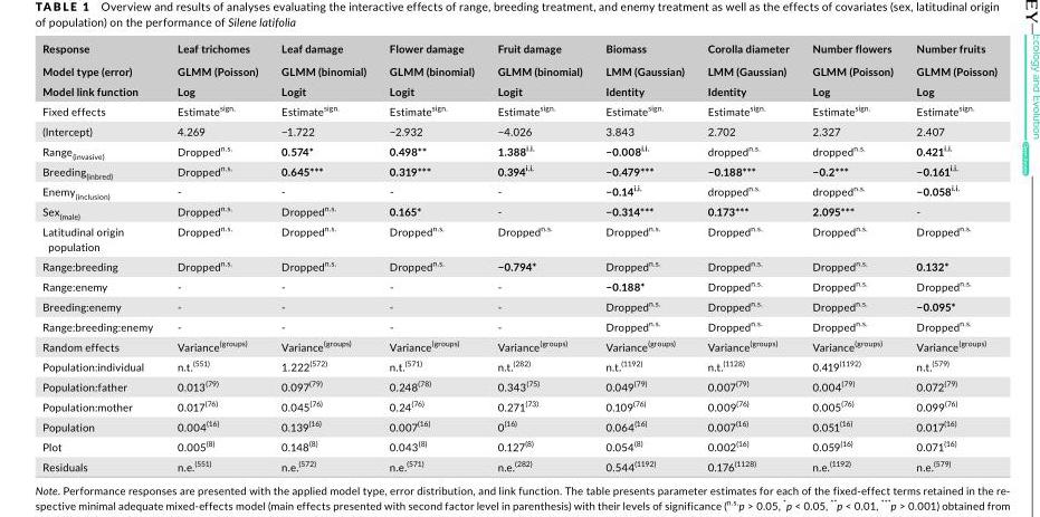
<table><thead><tr><td>Response</td><td>Leaf trichomes</td><td>Leaf damage</td><td>Flower damage</td><td>Fruit damage</td><td>Biomass</td><td>Corolla diameter</td><td>Number flowers</td><td>Number fruits</td></tr></thead><tbody><tr><td>Model type (error)</td><td>GLMM (Poisson)</td><td>GLMM (binomial)</td><td>GLMM (binomial)</td><td>GLMM (binomial)</td><td>LMM (Gaussian)</td><td>LMM (Gaussian)</td><td>GLMM (Poisson)</td><td>GLMM (Poisson)</td></tr><tr><td>Model link function</td><td>Log</td><td>Logit</td><td>Logit</td><td>Logit</td><td>Identity</td><td>Identity</td><td>Log</td><td>Log</td></tr><tr><td>Fixed effects</td><td>Estimate<sup>sign.</sup></td><td>Estimate<sup>sign.</sup></td><td>Estimate<sup>sign.</sup></td><td>Estimate<sup>sign.</sup></td><td>Estimate<sup>sign.</sup></td><td>Estimate<sup>sign.</sup></td><td>Estimate<sup>sign.</sup></td><td>Estimate<sup>sign.</sup></td></tr><tr><td>(Intercept)</td><td>4.269</td><td>−1.722</td><td>−2.932</td><td>−4.026</td><td>3.843</td><td>2.702</td><td>2.327</td><td>2.407</td></tr><tr><td>Range<sub>(invasive)</sub></td><td>Dropped<sup>n.s.</sup></td><td>0.574*</td><td>0.498**</td><td>1.388<sup>i.i.</sup></td><td>−0.008<sup>i.i.</sup></td><td>dropped<sup>n.s.</sup></td><td>dropped<sup>n.s.</sup></td><td>0.421<sup>i.i.</sup></td></tr><tr><td>Breeding<sub>(inbred)</sub></td><td>Dropped<sup>n.s.</sup></td><td>0.645***</td><td>0.319***</td><td>0.394<sup>i.i.</sup></td><td>−0.479***</td><td>−0.188***</td><td>−0.2***</td><td>−0.161<sup>i.i.</sup></td></tr><tr><td>Enemy<sub>(inclusion)</sub></td><td>‐</td><td>‐</td><td>‐</td><td>‐</td><td>−0.14<sup>i.i.</sup></td><td>dropped<sup>n.s.</sup></td><td>dropped<sup>n.s.</sup></td><td>−0.058<sup>i.i.</sup></td></tr><tr><td>Sex<sub>(male)</sub></td><td>Dropped<sup>n.s.</sup></td><td>Dropped<sup>n.s.</sup></td><td>0.165*</td><td>‐</td><td>−0.314***</td><td>0.173***</td><td>2.095***</td><td>‐</td></tr><tr><td>Latitudinal origin population</td><td>Dropped<sup>n.s.</sup></td><td>Dropped<sup>n.s.</sup></td><td>Dropped<sup>n.s.</sup></td><td>Dropped<sup>n.s.</sup></td><td>Dropped<sup>n.s.</sup></td><td>Dropped<sup>n.s.</sup></td><td>Dropped<sup>n.s.</sup></td><td>Dropped<sup>n.s.</sup></td></tr><tr><td>Range:breeding</td><td>Dropped<sup>n.s.</sup></td><td>Dropped<sup>n.s.</sup></td><td>Dropped<sup>n.s.</sup></td><td>−0.794*</td><td>Dropped<sup>n.s.</sup></td><td>Dropped<sup>n.s.</sup></td><td>Dropped<sup>n.s.</sup></td><td>0.132*</td></tr><tr><td>Range:enemy</td><td>‐</td><td>‐</td><td>‐</td><td>‐</td><td>−0.188*</td><td>Dropped<sup>n.s.</sup></td><td>Dropped<sup>n.s.</sup></td><td>Dropped<sup>n.s.</sup></td></tr><tr><td>Breeding:enemy</td><td>‐</td><td>‐</td><td>‐</td><td>‐</td><td>Dropped<sup>n.s.</sup></td><td>Dropped<sup>n.s.</sup></td><td>Dropped<sup>n.s.</sup></td><td>−0.095*</td></tr><tr><td>Range:breeding:enemy</td><td>‐</td><td>‐</td><td>‐</td><td>‐</td><td>Dropped<sup>n.s.</sup></td><td>Dropped<sup>n.s.</sup></td><td>Dropped<sup>n.s.</sup></td><td>Dropped<sup>n.s.</sup></td></tr><tr><td>Random effects</td><td>Variance<sup>(groups)</sup></td><td>Variance<sup>(groups)</sup></td><td>Variance<sup>(groups)</sup></td><td>Variance<sup>(groups)</sup></td><td>Variance<sup>(groups)</sup></td><td>Variance<sup>(groups)</sup></td><td>Variance<sup>(groups)</sup></td><td>Variance<sup>(groups)</sup></td></tr><tr><td>Population:individual</td><td>n.t.<sup>(551)</sup></td><td>1.222<sup>(572)</sup></td><td>n.t.<sup>(571)</sup></td><td>n.t.<sup>(282)</sup></td><td>n.t.<sup>(1192)</sup></td><td>n.t.<sup>(1128)</sup></td><td>0.419<sup>(1192)</sup></td><td>n.t.<sup>(579)</sup></td></tr><tr><td>Population:father</td><td>0.013<sup>(79)</sup></td><td>0.097<sup>(79)</sup></td><td>0.248<sup>(78)</sup></td><td>0.343<sup>(75)</sup></td><td>0.049<sup>(79)</sup></td><td>0.007<sup>(79)</sup></td><td>0.004<sup>(79)</sup></td><td>0.072<sup>(79)</sup></td></tr><tr><td>Population:mother</td><td>0.017<sup>(76)</sup></td><td>0.045<sup>(76)</sup></td><td>0.24<sup>(76)</sup></td><td>0.271<sup>(73)</sup></td><td>0.109<sup>(76)</sup></td><td>0.009<sup>(76)</sup></td><td>0.005<sup>(76)</sup></td><td>0.099<sup>(76)</sup></td></tr><tr><td>Population</td><td>0.004<sup>(16)</sup></td><td>0.139<sup>(16)</sup></td><td>0.007<sup>(16)</sup></td><td>0<sup>(16)</sup></td><td>0.064<sup>(16)</sup></td><td>0.007<sup>(16)</sup></td><td>0.051<sup>(16)</sup></td><td>0.017<sup>(16)</sup></td></tr><tr><td>Plot</td><td>0.005<sup>(8)</sup></td><td>0.148<sup>(8)</sup></td><td>0.043<sup>(8)</sup></td><td>0.127<sup>(8)</sup></td><td>0.054<sup>(8)</sup></td><td>0.002<sup>(16)</sup></td><td>0.059<sup>(16)</sup></td><td>0.071<sup>(16)</sup></td></tr><tr><td>Residuals</td><td>n.e.<sup>(551)</sup></td><td>n.e.<sup>(572)</sup></td><td>n.e.<sup>(571)</sup></td><td>n.e.<sup>(282)</sup></td><td>0.544<sup>(1192)</sup></td><td>0.176<sup>(1128)</sup></td><td>n.e.<sup>(1192)</sup></td><td>n.e.<sup>(579)</sup></td></tr></tbody></table>